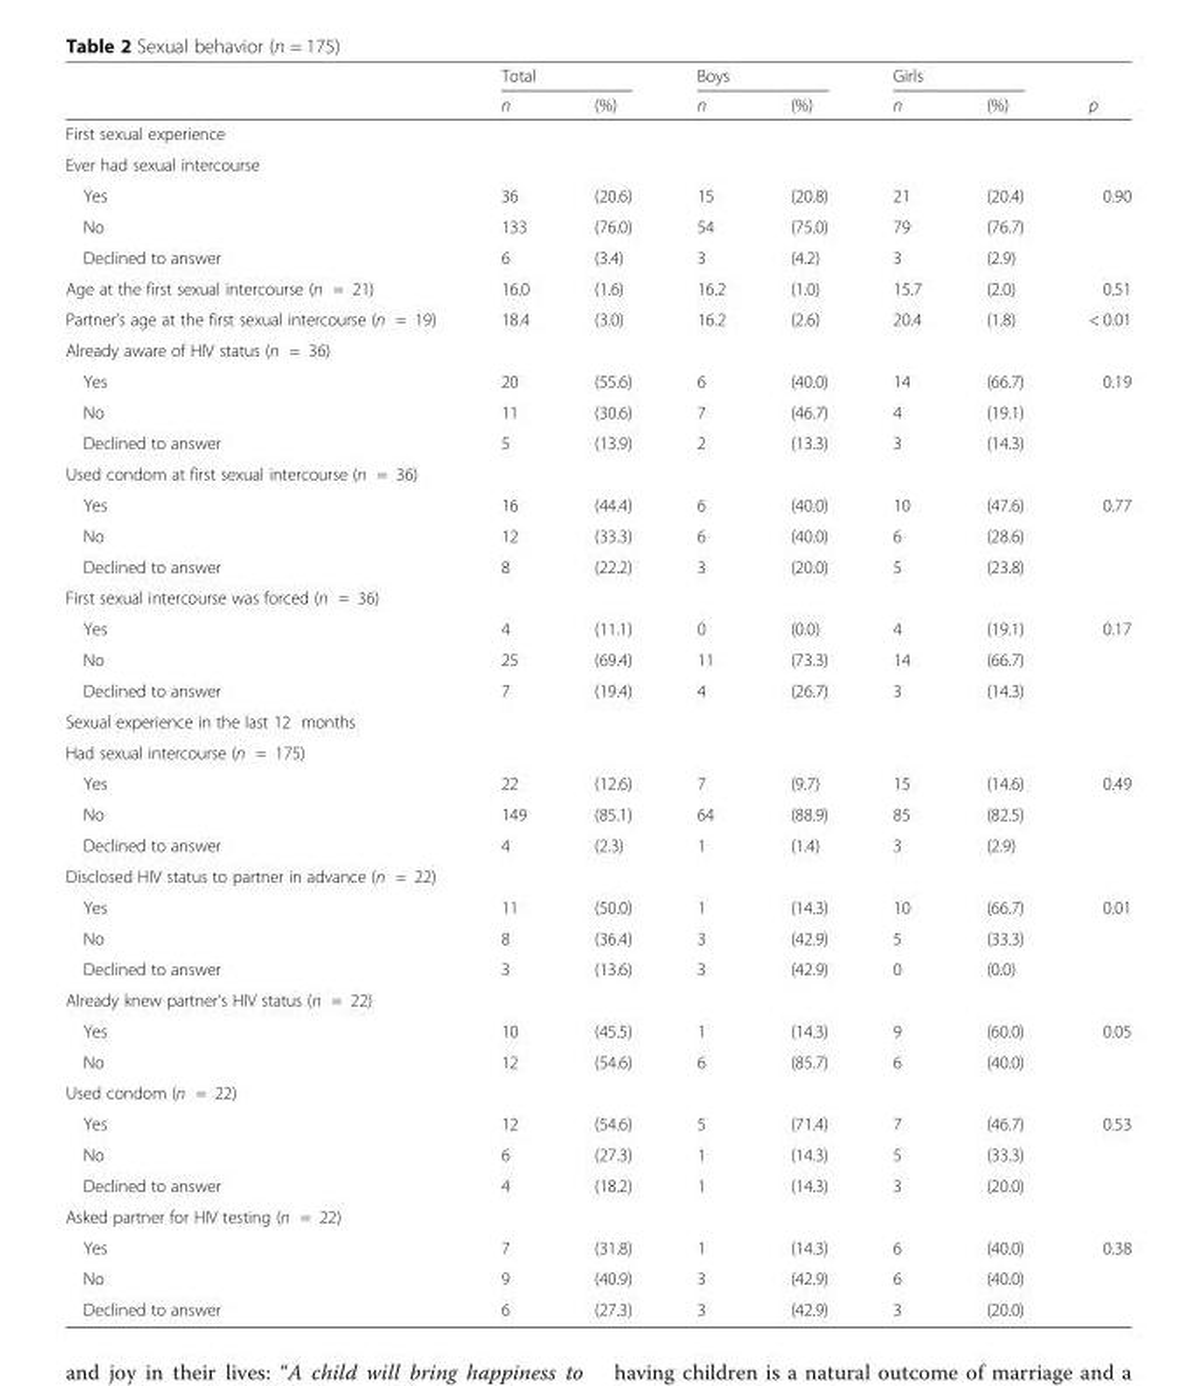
<table><thead><tr><td rowspan="2"></td><td colspan="2">Total</td><td colspan="2">Boys</td><td colspan="2">Girls</td><td rowspan="2">p</td></tr><tr><td>n</td><td>(%)</td><td>n</td><td>(%)</td><td>n</td><td>(%)</td></tr></thead><tbody><tr><td colspan="8">First sexual experience</td></tr><tr><td colspan="8">Ever had sexual intercourse</td></tr><tr><td>Yes</td><td>36</td><td>(20.6)</td><td>15</td><td>(20.8)</td><td>21</td><td>(20.4)</td><td>0.90</td></tr><tr><td>No</td><td>133</td><td>(76.0)</td><td>54</td><td>(75.0)</td><td>79</td><td>(76.7)</td><td></td></tr><tr><td>Declined to answer</td><td>6</td><td>(3.4)</td><td>3</td><td>(4.2)</td><td>3</td><td>(2.9)</td><td></td></tr><tr><td>Age at the first sexual intercourse (n = 21)</td><td>16.0</td><td>(1.6)</td><td>16.2</td><td>(1.0)</td><td>15.7</td><td>(2.0)</td><td>0.51</td></tr><tr><td>Partner’s age at the first sexual intercourse (n = 19)</td><td>18.4</td><td>(3.0)</td><td>16.2</td><td>(2.6)</td><td>20.4</td><td>(1.8)</td><td>&lt; 0.01</td></tr><tr><td colspan="8">Already aware of HIV status (n = 36)</td></tr><tr><td>Yes</td><td>20</td><td>(55.6)</td><td>6</td><td>(40.0)</td><td>14</td><td>(66.7)</td><td>0.19</td></tr><tr><td>No</td><td>11</td><td>(30.6)</td><td>7</td><td>(46.7)</td><td>4</td><td>(19.1)</td><td></td></tr><tr><td>Declined to answer</td><td>5</td><td>(13.9)</td><td>2</td><td>(13.3)</td><td>3</td><td>(14.3)</td><td></td></tr><tr><td colspan="8">Used condom at first sexual intercourse (n = 36)</td></tr><tr><td>Yes</td><td>16</td><td>(44.4)</td><td>6</td><td>(40.0)</td><td>10</td><td>(47.6)</td><td>0.77</td></tr><tr><td>No</td><td>12</td><td>(33.3)</td><td>6</td><td>(40.0)</td><td>6</td><td>(28.6)</td><td></td></tr><tr><td>Declined to answer</td><td>8</td><td>(22.2)</td><td>3</td><td>(20.0)</td><td>5</td><td>(23.8)</td><td></td></tr><tr><td colspan="8">First sexual intercourse was forced (n = 36)</td></tr><tr><td>Yes</td><td>4</td><td>(11.1)</td><td>0</td><td>(0.0)</td><td>4</td><td>(19.1)</td><td>0.17</td></tr><tr><td>No</td><td>25</td><td>(69.4)</td><td>11</td><td>(73.3)</td><td>14</td><td>(66.7)</td><td></td></tr><tr><td>Declined to answer</td><td>7</td><td>(19.4)</td><td>4</td><td>(26.7)</td><td>3</td><td>(14.3)</td><td></td></tr><tr><td colspan="8">Sexual experience in the last 12 months</td></tr><tr><td colspan="8">Had sexual intercourse (n = 175)</td></tr><tr><td>Yes</td><td>22</td><td>(12.6)</td><td>7</td><td>(9.7)</td><td>15</td><td>(14.6)</td><td>0.49</td></tr><tr><td>No</td><td>149</td><td>(85.1)</td><td>64</td><td>(88.9)</td><td>85</td><td>(82.5)</td><td></td></tr><tr><td>Declined to answer</td><td>4</td><td>(2.3)</td><td>1</td><td>(1.4)</td><td>3</td><td>(2.9)</td><td></td></tr><tr><td colspan="8">Disclosed HIV status to partner in advance (n = 22)</td></tr><tr><td>Yes</td><td>11</td><td>(50.0)</td><td>1</td><td>(14.3)</td><td>10</td><td>(66.7)</td><td>0.01</td></tr><tr><td>No</td><td>8</td><td>(36.4)</td><td>3</td><td>(42.9)</td><td>5</td><td>(33.3)</td><td></td></tr><tr><td>Declined to answer</td><td>3</td><td>(13.6)</td><td>3</td><td>(42.9)</td><td>0</td><td>(0.0)</td><td></td></tr><tr><td colspan="8">Already knew partner’s HIV status (n = 22)</td></tr><tr><td>Yes</td><td>10</td><td>(45.5)</td><td>1</td><td>(14.3)</td><td>9</td><td>(60.0)</td><td>0.05</td></tr><tr><td>No</td><td>12</td><td>(54.6)</td><td>6</td><td>(85.7)</td><td>6</td><td>(40.0)</td><td></td></tr><tr><td colspan="8">Used condom (n = 22)</td></tr><tr><td>Yes</td><td>12</td><td>(54.6)</td><td>5</td><td>(71.4)</td><td>7</td><td>(46.7)</td><td>0.53</td></tr><tr><td>No</td><td>6</td><td>(27.3)</td><td>1</td><td>(14.3)</td><td>5</td><td>(33.3)</td><td></td></tr><tr><td>Declined to answer</td><td>4</td><td>(18.2)</td><td>1</td><td>(14.3)</td><td>3</td><td>(20.0)</td><td></td></tr><tr><td colspan="8">Asked partner for HIV testing (n = 22)</td></tr><tr><td>Yes</td><td>7</td><td>(31.8)</td><td>1</td><td>(14.3)</td><td>6</td><td>(40.0)</td><td>0.38</td></tr><tr><td>No</td><td>9</td><td>(40.9)</td><td>3</td><td>(42.9)</td><td>6</td><td>(40.0)</td><td></td></tr><tr><td>Declined to answer</td><td>6</td><td>(27.3)</td><td>3</td><td>(42.9)</td><td>3</td><td>(20.0)</td><td></td></tr></tbody></table>